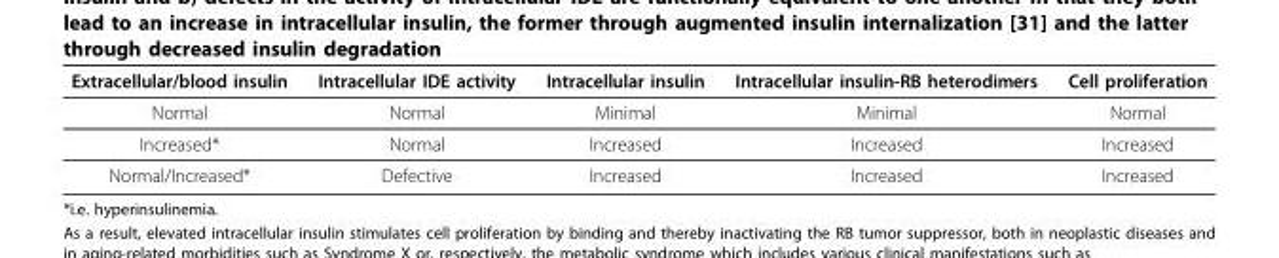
<table><thead><tr><td>Extracellular/blood insulin</td><td>Intracellular IDE activity</td><td>Intracellular insulin</td><td>Intracellular insulin-RB heterodimers</td><td>Cell proliferation</td></tr></thead><tbody><tr><td>Normal</td><td>Normal</td><td>Minimal</td><td>Minimal</td><td>Normal</td></tr><tr><td>Increased*</td><td>Normal</td><td>Increased</td><td>Increased</td><td>Increased</td></tr><tr><td>Normal/Increased*</td><td>Defective</td><td>Increased</td><td>Increased</td><td>Increased</td></tr></tbody></table>